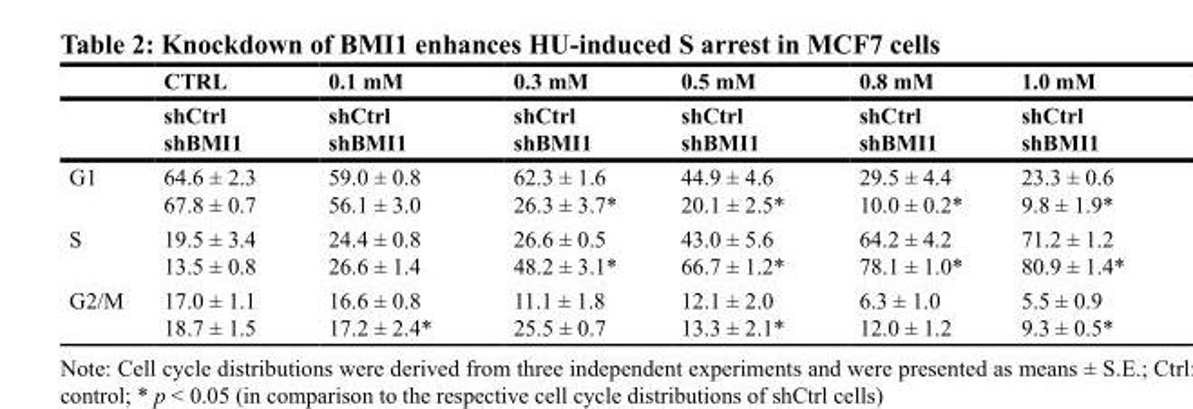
<table><thead><tr><td rowspan="2"></td><td rowspan="2">CTRL shCtrl shBMI1</td><td rowspan="2">0.1 mM shCtrl shBMI1</td><td rowspan="2">0.3 mM shCtrl shBMI1</td><td rowspan="2">0.5 mM shCtrl shBMI1</td><td rowspan="2">0.8 mM shCtrl shBMI1</td><td rowspan="2">1.0 mM shCtrl shBMI1</td></tr><tr></tr></thead><tbody><tr><td>G1</td><td>64.6 ± 2.3 67.8 ± 0.7</td><td>59.0 ± 0.8 56.1 ± 3.0</td><td>62.3 ± 1.6 26.3 ± 3.7*</td><td>44.9 ± 4.6 20.1 ± 2.5*</td><td>29.5 ± 4.4 10.0 ± 0.2*</td><td>23.3 ± 0.6 9.8 ± 1.9*</td></tr><tr><td>S</td><td>19.5 ± 3.4 13.5 ± 0.8</td><td>24.4 ± 0.8 26.6 ± 1.4</td><td>26.6 ± 0.5 48.2 ± 3.1*</td><td>43.0 ± 5.6 66.7 ± 1.2*</td><td>64.2 ± 4.2 78.1 ± 1.0*</td><td>71.2 ± 1.2 80.9 ± 1.4*</td></tr><tr><td>G2/M</td><td>17.0 ± 1.1 18.7 ± 1.5</td><td>16.6 ± 0.8 17.2 ± 2.4*</td><td>11.1 ± 1.8 25.5 ± 0.7</td><td>12.1 ± 2.0 13.3 ± 2.1*</td><td>6.3 ± 1.0 12.0 ± 1.2</td><td>5.5 ± 0.9 9.3 ± 0.5*</td></tr></tbody></table>